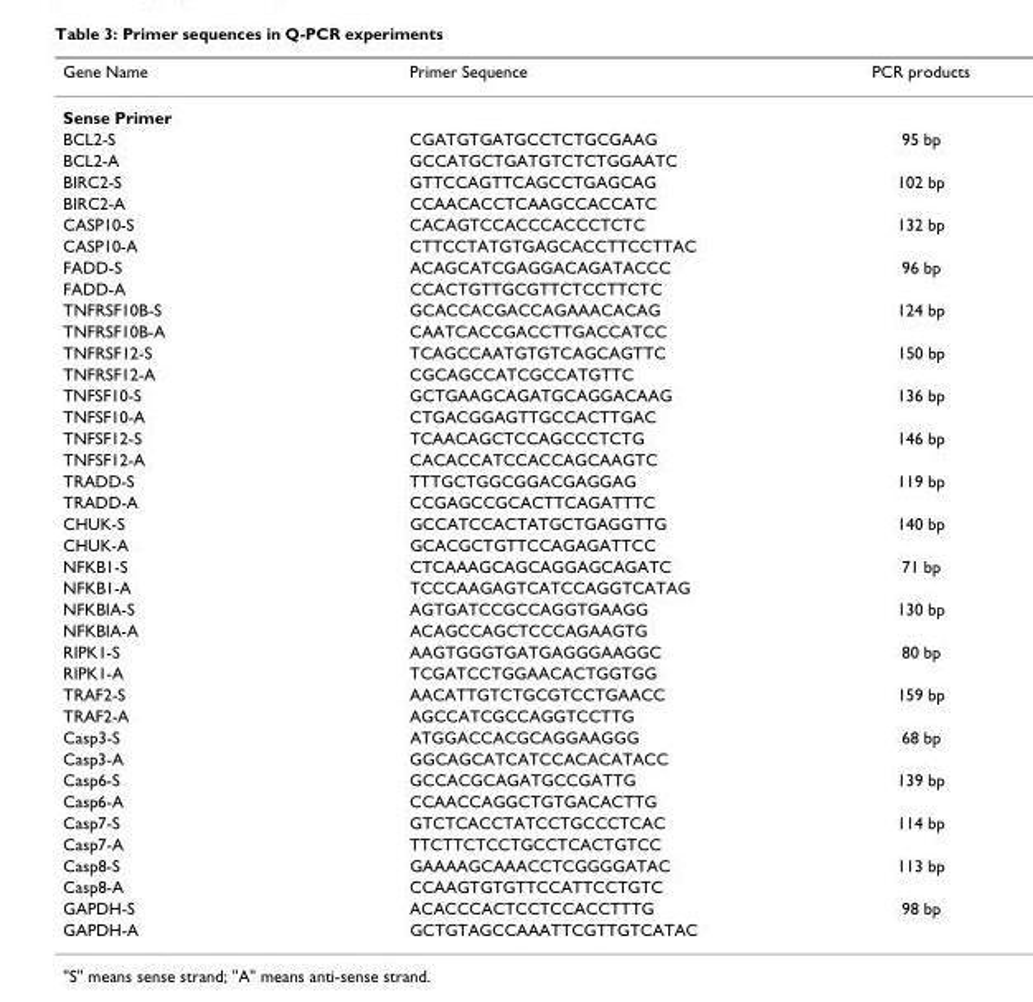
<table><thead><tr><td>Gene Name</td><td>Primer Sequence</td><td>PCR products</td></tr></thead><tbody><tr><td colspan="3">Sense Primer</td></tr><tr><td>BCL2-S</td><td>CGATGTGATGCCTCTGCGAAG</td><td>95 bp</td></tr><tr><td>BCL2-A</td><td>GCCATGCTGATGTCTCTGGAATC</td><td></td></tr><tr><td>BIRC2-S</td><td>GTTCCAGTTCAGCCTGAGCAG</td><td>102 bp</td></tr><tr><td>BIRC2-A</td><td>CCAACACCTCAAGCCACCATC</td><td></td></tr><tr><td>CASP10-S</td><td>CACAGTCCACCCACCCTCTC</td><td>132 bp</td></tr><tr><td>CASP10-A</td><td>CTTCCTATGTGAGCACCTTCCTTAC</td><td></td></tr><tr><td>FADD-S</td><td>ACAGCATCGAGGACAGATACCC</td><td>96 bp</td></tr><tr><td>FADD-A</td><td>CCACTGTTGCGTTCTCCTTCTC</td><td></td></tr><tr><td>TNFRSF10B-S</td><td>GCACCACGACCAGAAACACAG</td><td>124 bp</td></tr><tr><td>TNFRSF10B-A</td><td>CAATCACCGACCTTGACCATCC</td><td></td></tr><tr><td>TNFRSF12-S</td><td>TCAGCCAATGTGTCAGCAGTTC</td><td>150 bp</td></tr><tr><td>TNFRSF12-A</td><td>CGCAGCCATCGCCATGTTC</td><td></td></tr><tr><td>TNFSF10-S</td><td>GCTGAAGCAGATGCAGGACAAG</td><td>136 bp</td></tr><tr><td>TNFSF10-A</td><td>CTGACGGAGTTGCCACTTGAC</td><td></td></tr><tr><td>TNFSF12-S</td><td>TCAACAGCTCCAGCCCTCTG</td><td>146 bp</td></tr><tr><td>TNFSF12-A</td><td>CACACCATCCACCAGCAAGTC</td><td></td></tr><tr><td>TRADD-S</td><td>TTTGCTGGCGGACGAGGAG</td><td>119 bp</td></tr><tr><td>TRADD-A</td><td>CCGAGCCGCACTTCAGATTTC</td><td></td></tr><tr><td>CHUK-S</td><td>GCCATCCACTATGCTGAGGTTG</td><td>140 bp</td></tr><tr><td>CHUK-A</td><td>GCACGCTGTTCCAGAGATTCC</td><td></td></tr><tr><td>NFKB1-S</td><td>CTCAAAGCAGCAGGAGCAGATC</td><td>71 bp</td></tr><tr><td>NFKB1-A</td><td>TCCCAAGAGTCATCCAGGTCATAG</td><td></td></tr><tr><td>NFKBIA-S</td><td>AGTGATCCGCCAGGTGAAGG</td><td>130 bp</td></tr><tr><td>NFKBIA-A</td><td>ACAGCCAGCTCCCAGAAGTG</td><td></td></tr><tr><td>RIPK1-S</td><td>AAGTGGGTGATGAGGGAAGGC</td><td>80 bp</td></tr><tr><td>RIPK1-A</td><td>TCGATCCTGGAACACTGGTGG</td><td></td></tr><tr><td>TRAF2-S</td><td>AACATTGTCTGCGTCCTGAACC</td><td>159 bp</td></tr><tr><td>TRAF2-A</td><td>AGCCATCGCCAGGTCCTTG</td><td></td></tr><tr><td>Casp3-S</td><td>ATGGACCACGCAGGAAGGG</td><td>68 bp</td></tr><tr><td>Casp3-A</td><td>GGCAGCATCATCCACACATACC</td><td></td></tr><tr><td>Casp6-S</td><td>GCCACGCAGATGCCGATTG</td><td>139 bp</td></tr><tr><td>Casp6-A</td><td>CCAACCAGGCTGTGACACTTG</td><td></td></tr><tr><td>Casp7-S</td><td>GTCTCACCTATCCTGCCCTCAC</td><td>114 bp</td></tr><tr><td>Casp7-A</td><td>TTCTTCTCCTGCCTCACTGTCC</td><td></td></tr><tr><td>Casp8-S</td><td>GAAAAGCAAACCTCGGGGATAC</td><td>113 bp</td></tr><tr><td>Casp8-A</td><td>CCAAGTGTGTTCCATTCCTGTC</td><td></td></tr><tr><td>GAPDH-S</td><td>ACACCCACTCCTCCACCTTTG</td><td>98 bp</td></tr><tr><td>GAPDH-A</td><td>GCTGTAGCCAAATTCGTTGTCATAC</td><td></td></tr></tbody></table>